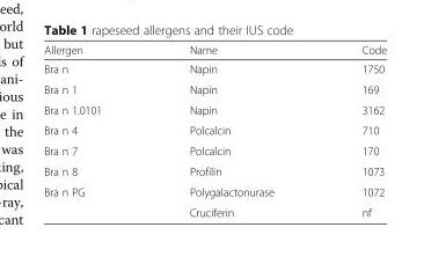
<table><thead><tr><td>Allergen</td><td>Name</td><td>Code</td></tr></thead><tbody><tr><td>Bra n</td><td>Napin</td><td>1750</td></tr><tr><td>Bra n 1</td><td>Napin</td><td>169</td></tr><tr><td>Bra n 1.0101</td><td>Napin</td><td>3162</td></tr><tr><td>Bra n 4</td><td>Polcalcin</td><td>710</td></tr><tr><td>Bra n 7</td><td>Polcalcin</td><td>170</td></tr><tr><td>Bra n 8</td><td>Profilin</td><td>1073</td></tr><tr><td rowspan="2">Bra n PG</td><td>Polygalactonurase</td><td>1072</td></tr><tr><td>Cruciferin</td><td>nf</td></tr></tbody></table>